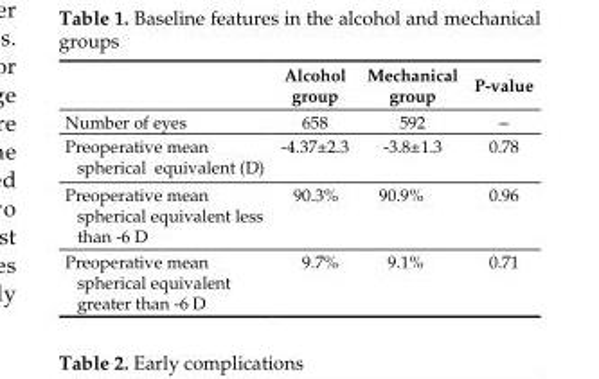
<table><thead><tr><td></td><td>Alcohol group</td><td>Mechanical group</td><td>P-value</td></tr></thead><tbody><tr><td>Number of eyes</td><td>658</td><td>592</td><td>–</td></tr><tr><td>Preoperative mean spherical equivalent (D)</td><td>-4.37±2.3</td><td>-3.8±1.3</td><td>0.78</td></tr><tr><td>Preoperative mean spherical equivalent less than -6 D</td><td>90.3%</td><td>90.9%</td><td>0.96</td></tr><tr><td>Preoperative mean spherical equivalent greater than -6 D</td><td>9.7%</td><td>9.1%</td><td>0.71</td></tr></tbody></table>